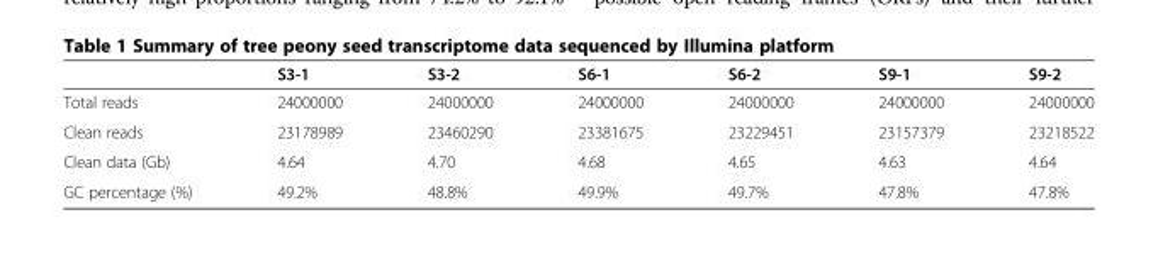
<table><thead><tr><td></td><td>S3-1</td><td>S3-2</td><td>S6-1</td><td>S6-2</td><td>S9-1</td><td>S9-2</td></tr></thead><tbody><tr><td>Total reads</td><td>24000000</td><td>24000000</td><td>24000000</td><td>24000000</td><td>24000000</td><td>24000000</td></tr><tr><td>Clean reads</td><td>23178989</td><td>23460290</td><td>23381675</td><td>23229451</td><td>23157379</td><td>23218522</td></tr><tr><td>Clean data (Gb)</td><td>4.64</td><td>4.70</td><td>4.68</td><td>4.65</td><td>4.63</td><td>4.64</td></tr><tr><td>GC percentage (%)</td><td>49.2%</td><td>48.8%</td><td>49.9%</td><td>49.7%</td><td>47.8%</td><td>47.8%</td></tr></tbody></table>